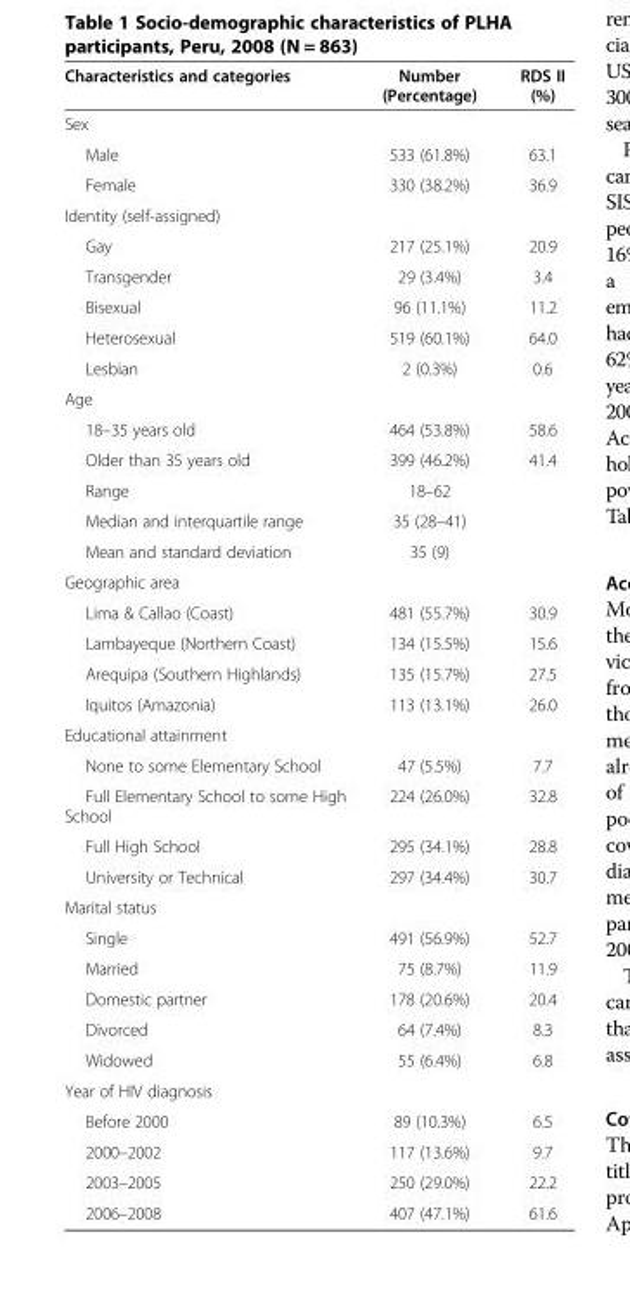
<table><thead><tr><td>Characteristics and categories</td><td>Number (Percentage)</td><td>RDS II (%)</td></tr></thead><tbody><tr><td colspan="3">Sex</td></tr><tr><td>Male</td><td>533 (61.8%)</td><td>63.1</td></tr><tr><td>Female</td><td>330 (38.2%)</td><td>36.9</td></tr><tr><td colspan="3">Identity (self-assigned)</td></tr><tr><td>Gay</td><td>217 (25.1%)</td><td>20.9</td></tr><tr><td>Transgender</td><td>29 (3.4%)</td><td>3.4</td></tr><tr><td>Bisexual</td><td>96 (11.1%)</td><td>11.2</td></tr><tr><td>Heterosexual</td><td>519 (60.1%)</td><td>64.0</td></tr><tr><td>Lesbian</td><td>2 (0.3%)</td><td>0.6</td></tr><tr><td colspan="3">Age</td></tr><tr><td>18–35 years old</td><td>464 (53.8%)</td><td>58.6</td></tr><tr><td>Older than 35 years old</td><td>399 (46.2%)</td><td>41.4</td></tr><tr><td>Range</td><td>18–62</td><td></td></tr><tr><td>Median and interquartile range</td><td>35 (28–41)</td><td></td></tr><tr><td>Mean and standard deviation</td><td>35 (9)</td><td></td></tr><tr><td colspan="3">Geographic area</td></tr><tr><td>Lima &amp; Callao (Coast)</td><td>481 (55.7%)</td><td>30.9</td></tr><tr><td>Lambayeque (Northern Coast)</td><td>134 (15.5%)</td><td>15.6</td></tr><tr><td>Arequipa (Southern Highlands)</td><td>135 (15.7%)</td><td>27.5</td></tr><tr><td>Iquitos (Amazonia)</td><td>113 (13.1%)</td><td>26.0</td></tr><tr><td colspan="3">Educational attainment</td></tr><tr><td>None to some Elementary School</td><td>47 (5.5%)</td><td>7.7</td></tr><tr><td>Full Elementary School to some High School</td><td>224 (26.0%)</td><td>32.8</td></tr><tr><td>Full High School</td><td>295 (34.1%)</td><td>28.8</td></tr><tr><td>University or Technical</td><td>297 (34.4%)</td><td>30.7</td></tr><tr><td colspan="3">Marital status</td></tr><tr><td>Single</td><td>491 (56.9%)</td><td>52.7</td></tr><tr><td>Married</td><td>75 (8.7%)</td><td>11.9</td></tr><tr><td>Domestic partner</td><td>178 (20.6%)</td><td>20.4</td></tr><tr><td>Divorced</td><td>64 (7.4%)</td><td>8.3</td></tr><tr><td>Widowed</td><td>55 (6.4%)</td><td>6.8</td></tr><tr><td colspan="3">Year of HIV diagnosis</td></tr><tr><td>Before 2000</td><td>89 (10.3%)</td><td>6.5</td></tr><tr><td>2000–2002</td><td>117 (13.6%)</td><td>9.7</td></tr><tr><td>2003–2005</td><td>250 (29.0%)</td><td>22.2</td></tr><tr><td>2006–2008</td><td>407 (47.1%)</td><td>61.6</td></tr></tbody></table>